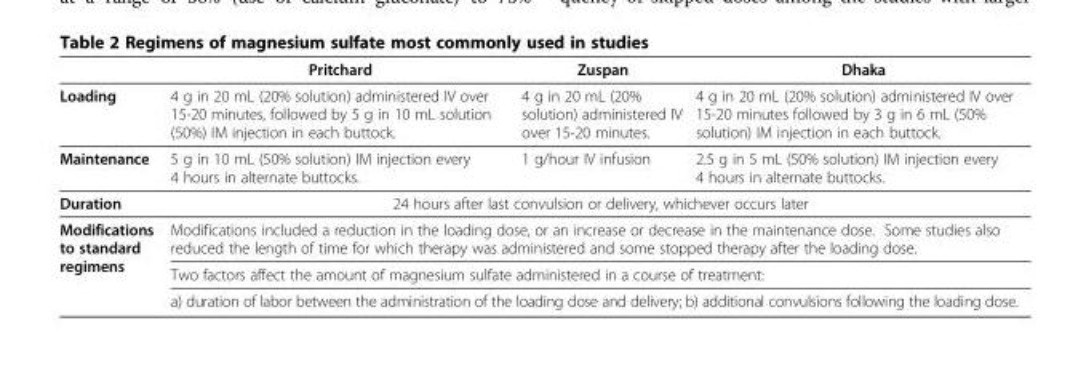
<table><thead><tr><td></td><td>Pritchard</td><td>Zuspan</td><td>Dhaka</td></tr></thead><tbody><tr><td>Loading</td><td>4 g in 20 mL (20% solution) administered IV over 15-20 minutes, followed by 5 g in 10 mL solution (50%) IM injection in each buttock.</td><td>4 g in 20 mL (20% solution) administered IV over 15-20 minutes.</td><td>4 g in 20 mL (20% solution) administered IV over 15-20 minutes followed by 3 g in 6 mL (50% solution) IM injection in each buttock.</td></tr><tr><td>Maintenance</td><td>5 g in 10 mL (50% solution) IM injection every 4 hours in alternate buttocks.</td><td>1 g/hour IV infusion</td><td>2.5 g in 5 mL (50% solution) IM injection every 4 hours in alternate buttocks.</td></tr><tr><td>Duration</td><td colspan="3">24 hours after last convulsion or delivery, whichever occurs later</td></tr><tr><td rowspan="3">Modifications to standard regimens</td><td colspan="3">Modifications included a reduction in the loading dose, or an increase or decrease in the maintenance dose. Some studies also reduced the length of time for which therapy was administered and some stopped therapy after the loading dose.</td></tr><tr><td colspan="3">Two factors affect the amount of magnesium sulfate administered in a course of treatment:</td></tr><tr><td colspan="3">a) duration of labor between the administration of the loading dose and delivery; b) additional convulsions following the loading dose.</td></tr></tbody></table>